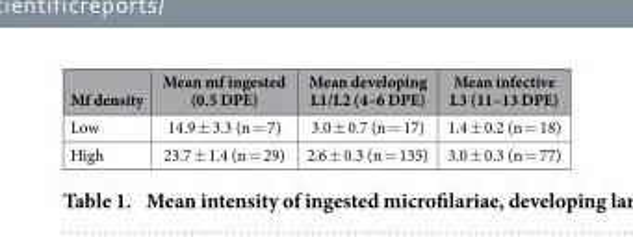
<table><thead><tr><td>Mf density</td><td>Mean mf ingested (0.5 DPE)</td><td>Mean developing L1/L2 (4–6 DPE)</td><td>Mean infective L3 (11–13 DPE)</td></tr></thead><tbody><tr><td>Low</td><td>14.9 ± 3.3 (n = 7)</td><td>3.0 ± 0.7 (n = 17)</td><td>1.4 ± 0.2 (n = 18)</td></tr><tr><td>High</td><td>23.7 ± 1.4 (n = 29)</td><td>2.6 ± 0.3 (n = 135)</td><td>3.0 ± 0.3 (n = 77)</td></tr></tbody></table>